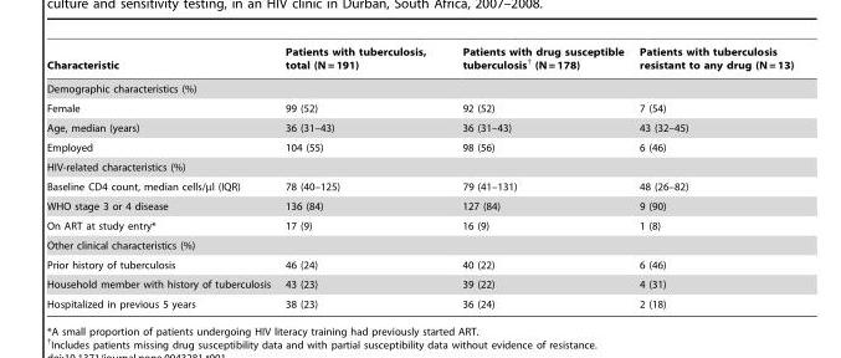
<table><thead><tr><td>Characteristic</td><td>Patients with tuberculosis, total (N = 191)</td><td>Patients with drug susceptible tuberculosis† (N = 178)</td><td>Patients with tuberculosis resistant to any drug (N = 13)</td></tr></thead><tbody><tr><td colspan="4">Demographic characteristics (%)</td></tr><tr><td>Female</td><td>99 (52)</td><td>92 (52)</td><td>7 (54)</td></tr><tr><td>Age, median (years)</td><td>36 (31–43)</td><td>36 (31–43)</td><td>43 (32–45)</td></tr><tr><td>Employed</td><td>104 (55)</td><td>98 (56)</td><td>6 (46)</td></tr><tr><td colspan="4">HIV-related characteristics (%)</td></tr><tr><td>Baseline CD4 count, median cells/µl (IQR)</td><td>78 (40–125)</td><td>79 (41–131)</td><td>48 (26–82)</td></tr><tr><td>WHO stage 3 or 4 disease</td><td>136 (84)</td><td>127 (84)</td><td>9 (90)</td></tr><tr><td>On ART at study entry*</td><td>17 (9)</td><td>16 (9)</td><td>1 (8)</td></tr><tr><td colspan="4">Other clinical characteristics (%)</td></tr><tr><td>Prior history of tuberculosis</td><td>46 (24)</td><td>40 (22)</td><td>6 (46)</td></tr><tr><td>Household member with history of tuberculosis</td><td>43 (23)</td><td>39 (22)</td><td>4 (31)</td></tr><tr><td>Hospitalized in previous 5 years</td><td>38 (23)</td><td>36 (24)</td><td>2 (18)</td></tr></tbody></table>